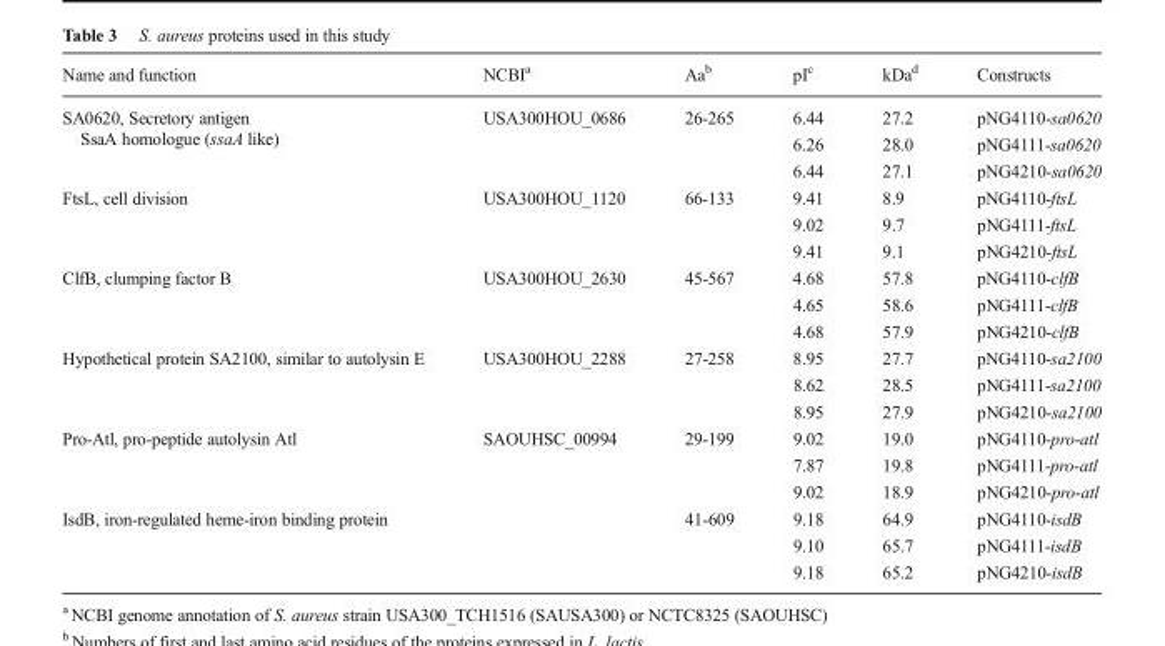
<table><thead><tr><td>Name and function</td><td>NCBI<sup>a</sup></td><td>Aa<sup>b</sup></td><td>pI<sup>c</sup></td><td>kDa<sup>d</sup></td><td>Constructs</td></tr></thead><tbody><tr><td rowspan="3">SA0620, Secretory antigen SsaA homologue (ssaA like)</td><td rowspan="3">USA300HOU_0686</td><td rowspan="3">26-265</td><td>6.44</td><td>27.2</td><td>pNG4110-sa0620</td></tr><tr><td>6.26</td><td>28.0</td><td>pNG4111-sa0620</td></tr><tr><td>6.44</td><td>27.1</td><td>pNG4210-sa0620</td></tr><tr><td rowspan="3">FtsL, cell division</td><td rowspan="3">USA300HOU_1120</td><td rowspan="3">66-133</td><td>9.41</td><td>8.9</td><td>pNG4110-ftsL</td></tr><tr><td>9.02</td><td>9.7</td><td>pNG4111-ftsL</td></tr><tr><td>9.41</td><td>9.1</td><td>pNG4210-ftsL</td></tr><tr><td rowspan="3">ClfB, clumping factor B</td><td rowspan="3">USA300HOU_2630</td><td rowspan="3">45-567</td><td>4.68</td><td>57.8</td><td>pNG4110-clfB</td></tr><tr><td>4.65</td><td>58.6</td><td>pNG4111-clfB</td></tr><tr><td>4.68</td><td>57.9</td><td>pNG4210-clfB</td></tr><tr><td rowspan="3">Hypothetical protein SA2100, similar to autolysin E</td><td rowspan="3">USA300HOU_2288</td><td rowspan="3">27-258</td><td>8.95</td><td>27.7</td><td>pNG4110-sa2100</td></tr><tr><td>8.62</td><td>28.5</td><td>pNG4111-sa2100</td></tr><tr><td>8.95</td><td>27.9</td><td>pNG4210-sa2100</td></tr><tr><td rowspan="3">Pro-Atl, pro-peptide autolysin Atl</td><td rowspan="3">SAOUHSC_00994</td><td rowspan="3">29-199</td><td>9.02</td><td>19.0</td><td>pNG4110-pro-atl</td></tr><tr><td>7.87</td><td>19.8</td><td>pNG4111-pro-atl</td></tr><tr><td>9.02</td><td>18.9</td><td>pNG4210-pro-atl</td></tr><tr><td rowspan="3">IsdB, iron-regulated heme-iron binding protein</td><td rowspan="3"></td><td rowspan="3">41-609</td><td>9.18</td><td>64.9</td><td>pNG4110-isdB</td></tr><tr><td>9.10</td><td>65.7</td><td>pNG4111-isdB</td></tr><tr><td>9.18</td><td>65.2</td><td>pNG4210-isdB</td></tr></tbody></table>